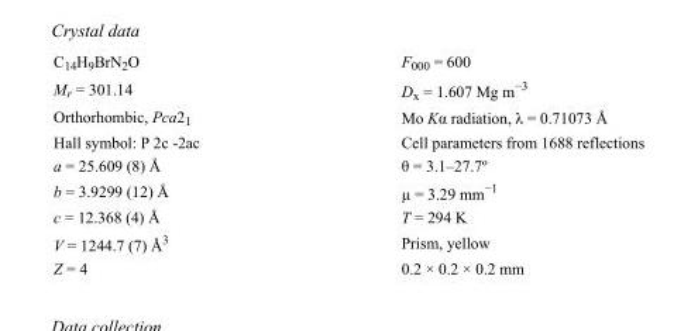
<table><tbody><tr><td>C<sub>14</sub>H<sub>9</sub>BrN<sub>2</sub>O</td><td>F000 = 600</td></tr><tr><td>M<sub>r</sub> = 301.14</td><td>D<sub>x</sub> = 1.607 Mg m<sup>−3</sup></td></tr><tr><td>Orthorhombic, Pca2<sub>1</sub></td><td>Mo Kα radiation, λ = 0.71073 Å</td></tr><tr><td>Hall symbol: P 2c -2ac</td><td>Cell parameters from 1688 reflections</td></tr><tr><td>a = 25.609 (8) Å</td><td>θ = 3.1–27.7º</td></tr><tr><td>b = 3.9299 (12) Å</td><td>µ = 3.29 mm<sup>−1</sup></td></tr><tr><td>c = 12.368 (4) Å</td><td>T = 294 K</td></tr><tr><td>V = 1244.7 (7) Å<sup>3</sup></td><td>Prism, yellow</td></tr><tr><td>Z = 4</td><td>0.2 × 0.2 × 0.2 mm</td></tr></tbody></table>